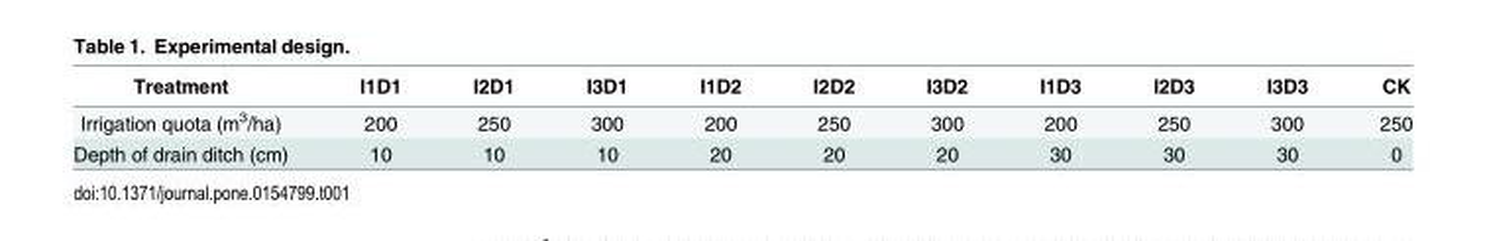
<table><thead><tr><td>Treatment</td><td>I1D1</td><td>I2D1</td><td>I3D1</td><td>I1D2</td><td>I2D2</td><td>I3D2</td><td>I1D3</td><td>I2D3</td><td>I3D3</td><td>CK</td></tr></thead><tbody><tr><td>Irrigation quota (m<sup>3</sup>/ha)</td><td>200</td><td>250</td><td>300</td><td>200</td><td>250</td><td>300</td><td>200</td><td>250</td><td>300</td><td>250</td></tr><tr><td>Depth of drain ditch (cm)</td><td>10</td><td>10</td><td>10</td><td>20</td><td>20</td><td>20</td><td>30</td><td>30</td><td>30</td><td>0</td></tr></tbody></table>